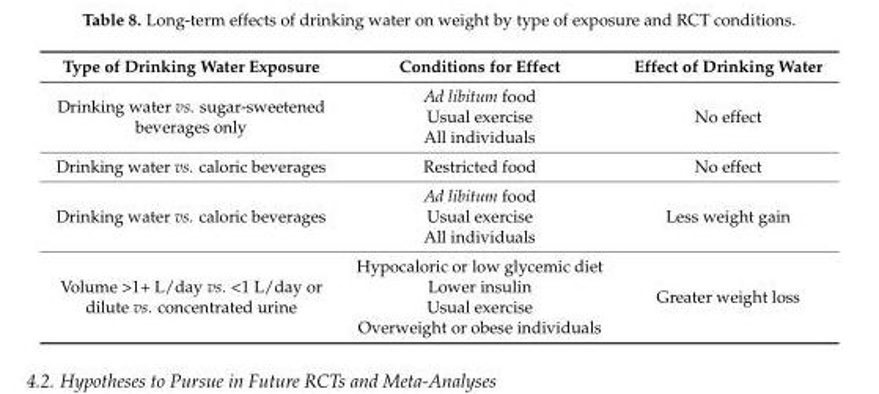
<table><thead><tr><td>Type of Drinking Water Exposure</td><td>Conditions for Effect</td><td>Effect of Drinking Water</td></tr></thead><tbody><tr><td>Drinking water vs. sugar-sweetened beverages only</td><td>Ad libitum food Usual exercise All individuals</td><td>No effect</td></tr><tr><td>Drinking water vs. caloric beverages</td><td>Restricted food</td><td>No effect</td></tr><tr><td>Drinking water vs. caloric beverages</td><td>Ad libitum food Usual exercise All individuals</td><td>Less weight gain</td></tr><tr><td>Volume &gt;1+ L/day vs. &lt;1 L/day or dilute vs. concentrated urine</td><td>Hypocaloric or low glycemic diet Lower insulin Usual exercise Overweight or obese individuals</td><td>Greater weight loss</td></tr></tbody></table>